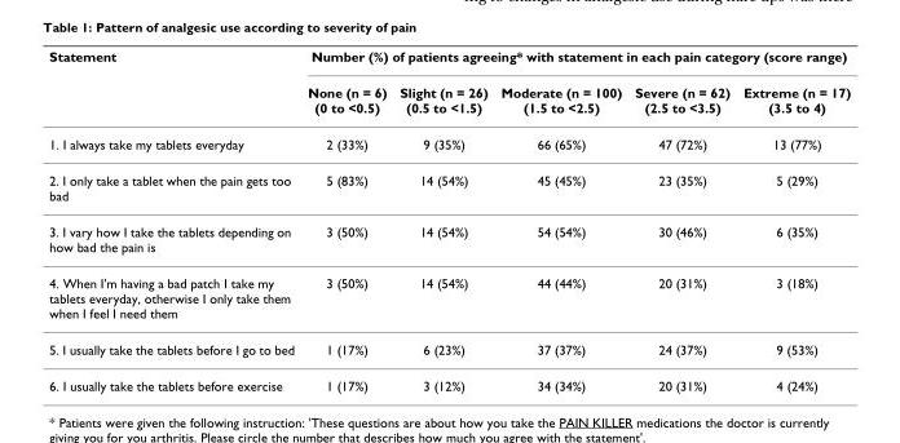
<table><thead><tr><td rowspan="2">Statement</td><td colspan="5">Number (%) of patients agreeing* with statement in each pain category (score range)</td></tr><tr><td>None (n = 6) (0 to &lt;0.5)</td><td>Slight (n = 26) (0.5 to &lt;1.5)</td><td>Moderate (n = 100) (1.5 to &lt;2.5)</td><td>Severe (n = 62) (2.5 to &lt;3.5)</td><td>Extreme (n = 17) (3.5 to 4)</td></tr></thead><tbody><tr><td>1. I always take my tablets everyday</td><td>2 (33%)</td><td>9 (35%)</td><td>66 (65%)</td><td>47 (72%)</td><td>13 (77%)</td></tr><tr><td>2. I only take a tablet when the pain gets too bad</td><td>5 (83%)</td><td>14 (54%)</td><td>45 (45%)</td><td>23 (35%)</td><td>5 (29%)</td></tr><tr><td>3. I vary how I take the tablets depending on how bad the pain is</td><td>3 (50%)</td><td>14 (54%)</td><td>54 (54%)</td><td>30 (46%)</td><td>6 (35%)</td></tr><tr><td>4. When I&#x27;m having a bad patch I take my tablets everyday, otherwise I only take them when I feel I need them</td><td>3 (50%)</td><td>14 (54%)</td><td>44 (44%)</td><td>20 (31%)</td><td>3 (18%)</td></tr><tr><td>5. I usually take the tablets before I go to bed</td><td>1 (17%)</td><td>6 (23%)</td><td>37 (37%)</td><td>24 (37%)</td><td>9 (53%)</td></tr><tr><td>6. I usually take the tablets before exercise</td><td>1 (17%)</td><td>3 (12%)</td><td>34 (34%)</td><td>20 (31%)</td><td>4 (24%)</td></tr></tbody></table>